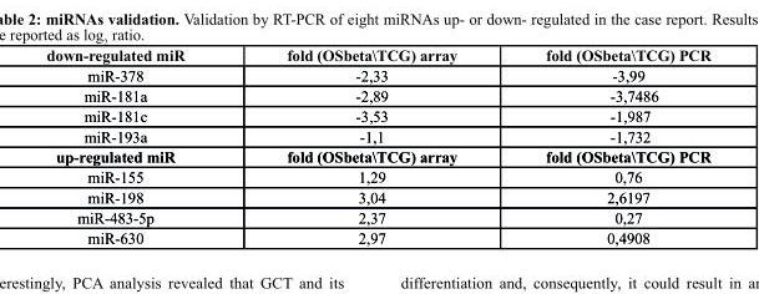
<table><thead><tr><td>down-regulated miR</td><td>fold (OSbeta\TCG) array</td><td>fold (OSbeta\TCG) PCR</td></tr></thead><tbody><tr><td>miR-378</td><td>-2,33</td><td>-3,99</td></tr><tr><td>miR-181a</td><td>-2,89</td><td>-3,7486</td></tr><tr><td>miR-181c</td><td>-3,53</td><td>-1,987</td></tr><tr><td>miR-193a</td><td>-1,1</td><td>-1,732</td></tr><tr><td>up-regulated miR</td><td>fold (OSbeta\TCG) array</td><td>fold (OSbeta\TCG) PCR</td></tr><tr><td>miR-155</td><td>1,29</td><td>0,76</td></tr><tr><td>miR-198</td><td>3,04</td><td>2,6197</td></tr><tr><td>miR-483-5p</td><td>2,37</td><td>0,27</td></tr><tr><td>miR-630</td><td>2,97</td><td>0,4908</td></tr></tbody></table>